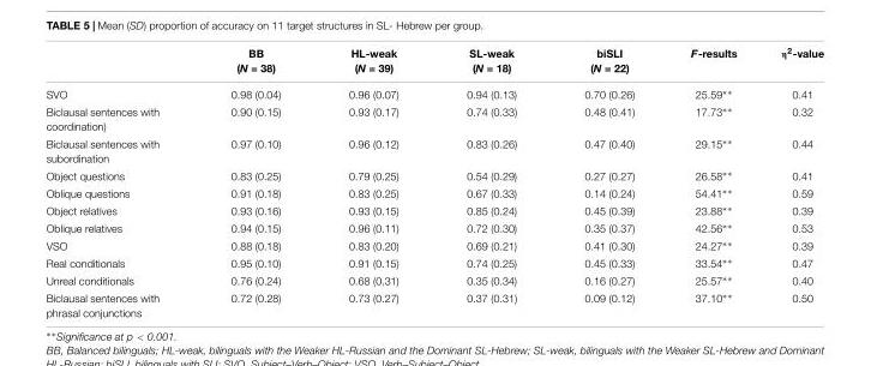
<table><thead><tr><td></td><td>BB (N = 38)</td><td>HL-weak (N = 39)</td><td>SL-weak (N = 18)</td><td>biSLI (N = 22)</td><td>F-results</td><td>η<sup>2</sup>-value</td></tr></thead><tbody><tr><td>SVO</td><td>0.98 (0.04)</td><td>0.96 (0.07)</td><td>0.94 (0.13)</td><td>0.70 (0.26)</td><td>25.59∗∗</td><td>0.41</td></tr><tr><td>Biclausal sentences with coordination)</td><td>0.90 (0.15)</td><td>0.93 (0.17)</td><td>0.74 (0.33)</td><td>0.48 (0.41)</td><td>17.73∗∗</td><td>0.32</td></tr><tr><td>Biclausal sentences with subordination</td><td>0.97 (0.10)</td><td>0.96 (0.12)</td><td>0.83 (0.26)</td><td>0.47 (0.40)</td><td>29.15∗∗</td><td>0.44</td></tr><tr><td>Object questions</td><td>0.83 (0.25)</td><td>0.79 (0.25)</td><td>0.54 (0.29)</td><td>0.27 (0.27)</td><td>26.58∗∗</td><td>0.41</td></tr><tr><td>Oblique questions</td><td>0.91 (0.18)</td><td>0.83 (0.25)</td><td>0.67 (0.33)</td><td>0.14 (0.24)</td><td>54.41∗∗</td><td>0.59</td></tr><tr><td>Object relatives</td><td>0.93 (0.16)</td><td>0.93 (0.15)</td><td>0.85 (0.24)</td><td>0.45 (0.39)</td><td>23.88∗∗</td><td>0.39</td></tr><tr><td>Oblique relatives</td><td>0.94 (0.15)</td><td>0.96 (0.11)</td><td>0.72 (0.30)</td><td>0.35 (0.37)</td><td>42.56∗∗</td><td>0.53</td></tr><tr><td>VSO</td><td>0.88 (0.18)</td><td>0.83 (0.20)</td><td>0.69 (0.21)</td><td>0.41 (0.30)</td><td>24.27∗∗</td><td>0.39</td></tr><tr><td>Real conditionals</td><td>0.95 (0.10)</td><td>0.91 (0.15)</td><td>0.74 (0.25)</td><td>0.45 (0.33)</td><td>33.54∗∗</td><td>0.47</td></tr><tr><td>Unreal conditionals</td><td>0.76 (0.24)</td><td>0.68 (0.31)</td><td>0.35 (0.34)</td><td>0.16 (0.27)</td><td>25.57∗∗</td><td>0.40</td></tr><tr><td>Biclausal sentences with phrasal conjunctions</td><td>0.72 (0.28)</td><td>0.73 (0.27)</td><td>0.37 (0.31)</td><td>0.09 (0.12)</td><td>37.10∗∗</td><td>0.50</td></tr></tbody></table>